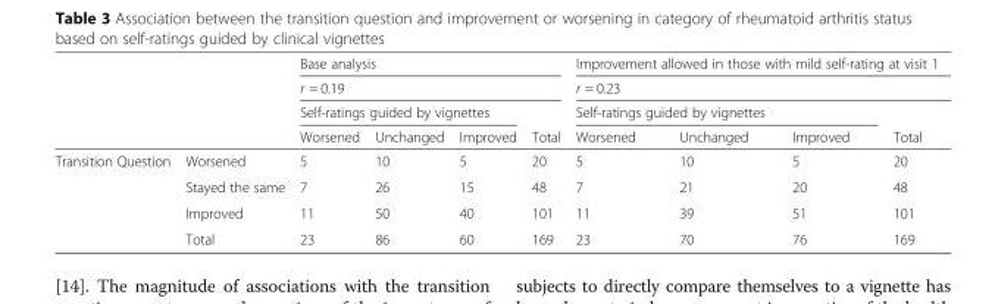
<table><thead><tr><td rowspan="4"></td><td rowspan="4"></td><td rowspan="2" colspan="4">Base analysis r = 0.19</td><td rowspan="2" colspan="4">Improvement allowed in those with mild self-rating at visit 1 r = 0.23</td></tr><tr></tr><tr><td colspan="3">Self-ratings guided by vignettes</td><td rowspan="2">Total</td><td colspan="3">Self-ratings guided by vignettes</td><td rowspan="2">Total</td></tr><tr><td>Worsened</td><td>Unchanged</td><td>Improved</td><td>Worsened</td><td>Unchanged</td><td>Improved</td></tr></thead><tbody><tr><td rowspan="4">Transition Question</td><td>Worsened</td><td>5</td><td>10</td><td>5</td><td>20</td><td>5</td><td>10</td><td>5</td><td>20</td></tr><tr><td>Stayed the same</td><td>7</td><td>26</td><td>15</td><td>48</td><td>7</td><td>21</td><td>20</td><td>48</td></tr><tr><td>Improved</td><td>11</td><td>50</td><td>40</td><td>101</td><td>11</td><td>39</td><td>51</td><td>101</td></tr><tr><td>Total</td><td>23</td><td>86</td><td>60</td><td>169</td><td>23</td><td>70</td><td>76</td><td>169</td></tr></tbody></table>